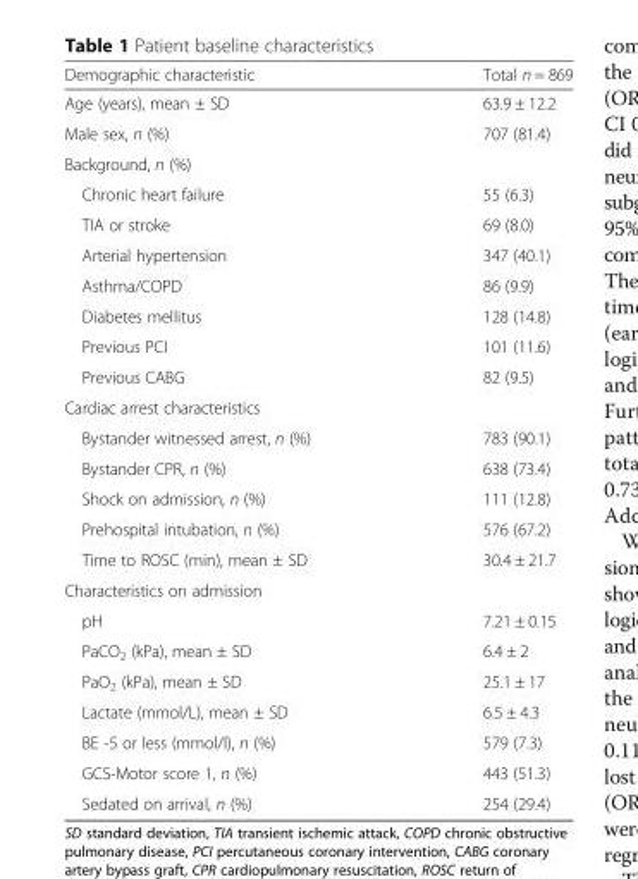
<table><thead><tr><td>Demographic characteristic</td><td>Total n = 869</td></tr></thead><tbody><tr><td>Age (years), mean ± SD</td><td>63.9 ± 12.2</td></tr><tr><td>Male sex, n (%)</td><td>707 (81.4)</td></tr><tr><td colspan="2">Background, n (%)</td></tr><tr><td>Chronic heart failure</td><td>55 (6.3)</td></tr><tr><td>TIA or stroke</td><td>69 (8.0)</td></tr><tr><td>Arterial hypertension</td><td>347 (40.1)</td></tr><tr><td>Asthma/COPD</td><td>86 (9.9)</td></tr><tr><td>Diabetes mellitus</td><td>128 (14.8)</td></tr><tr><td>Previous PCI</td><td>101 (11.6)</td></tr><tr><td>Previous CABG</td><td>82 (9.5)</td></tr><tr><td colspan="2">Cardiac arrest characteristics</td></tr><tr><td>Bystander witnessed arrest, n (%)</td><td>783 (90.1)</td></tr><tr><td>Bystander CPR, n (%)</td><td>638 (73.4)</td></tr><tr><td>Shock on admission, n (%)</td><td>111 (12.8)</td></tr><tr><td>Prehospital intubation, n (%)</td><td>576 (67.2)</td></tr><tr><td>Time to ROSC (min), mean ± SD</td><td>30.4 ± 21.7</td></tr><tr><td colspan="2">Characteristics on admission</td></tr><tr><td>pH</td><td>7.21 ± 0.15</td></tr><tr><td>PaCO<sub>2</sub> (kPa), mean ± SD</td><td>6.4 ± 2</td></tr><tr><td>PaO<sub>2</sub> (kPa), mean ± SD</td><td>25.1 ± 17</td></tr><tr><td>Lactate (mmol/L), mean ± SD</td><td>6.5 ± 4.3</td></tr><tr><td>BE -5 or less (mmol/l), n (%)</td><td>579 (7.3)</td></tr><tr><td>GCS-Motor score 1, n (%)</td><td>443 (51.3)</td></tr><tr><td>Sedated on arrival, n (%)</td><td>254 (29.4)</td></tr></tbody></table>